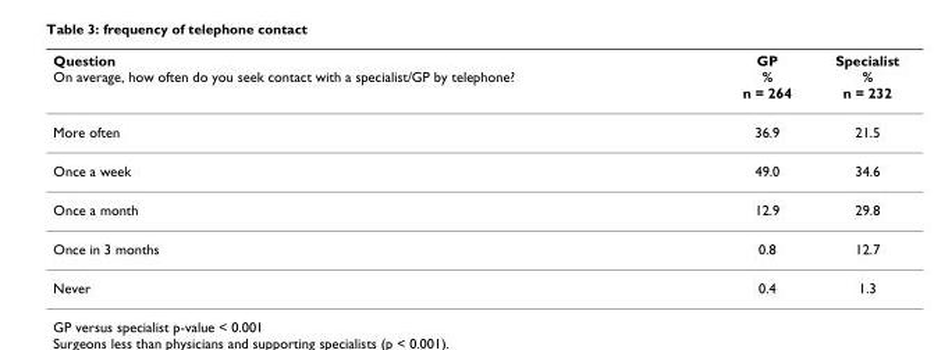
<table><thead><tr><td>Question On average, how often do you seek contact with a specialist/GP by telephone?</td><td>GP % n = 264</td><td>Specialist % n = 232</td></tr></thead><tbody><tr><td>More often</td><td>36.9</td><td>21.5</td></tr><tr><td>Once a week</td><td>49.0</td><td>34.6</td></tr><tr><td>Once a month</td><td>12.9</td><td>29.8</td></tr><tr><td>Once in 3 months</td><td>0.8</td><td>12.7</td></tr><tr><td>Never</td><td>0.4</td><td>1.3</td></tr></tbody></table>